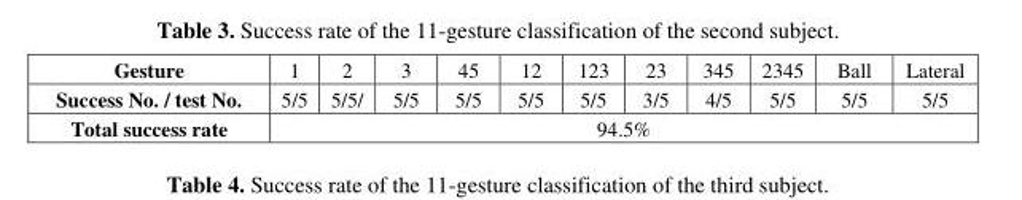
<table><tbody><tr><td>Gesture</td><td>1</td><td>2</td><td>3</td><td>45</td><td>12</td><td>123</td><td>23</td><td>345</td><td>2345</td><td>Ball</td><td>Lateral</td></tr><tr><td>Success No. / test No.</td><td>5/5</td><td>5/5/</td><td>5/5</td><td>5/5</td><td>5/5</td><td>5/5</td><td>3/5</td><td>4/5</td><td>5/5</td><td>5/5</td><td>5/5</td></tr><tr><td>Total success rate</td><td colspan="11">94.5%</td></tr></tbody></table>